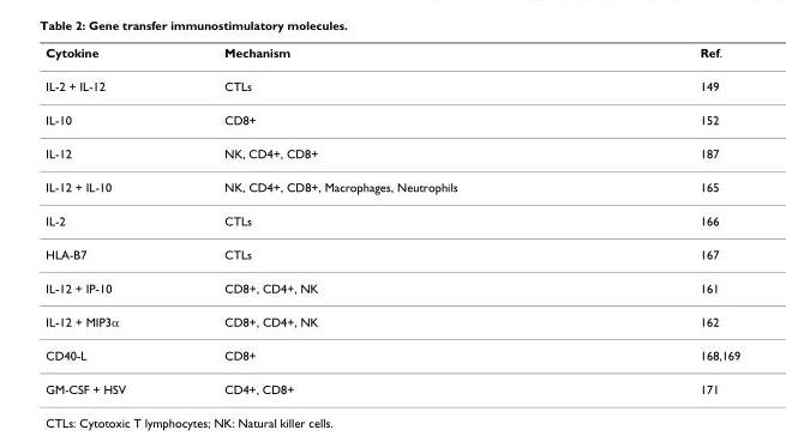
<table><thead><tr><td>Cytokine</td><td>Mechanism</td><td>Ref.</td></tr></thead><tbody><tr><td>IL-2 + IL-12</td><td>CTLs</td><td>149</td></tr><tr><td>IL-10</td><td>CD8+</td><td>152</td></tr><tr><td>IL-12</td><td>NK, CD4+, CD8+</td><td>187</td></tr><tr><td>IL-12 + IL-10</td><td>NK, CD4+, CD8+, Macrophages, Neutrophils</td><td>165</td></tr><tr><td>IL-2</td><td>CTLs</td><td>166</td></tr><tr><td>HLA-B7</td><td>CTLs</td><td>167</td></tr><tr><td>IL-12 + IP-10</td><td>CD8+, CD4+, NK</td><td>161</td></tr><tr><td>IL-12 + MIP3α</td><td>CD8+, CD4+, NK</td><td>162</td></tr><tr><td>CD40-L</td><td>CD8+</td><td>168,169</td></tr><tr><td>GM-CSF + HSV</td><td>CD4+, CD8+</td><td>171</td></tr></tbody></table>